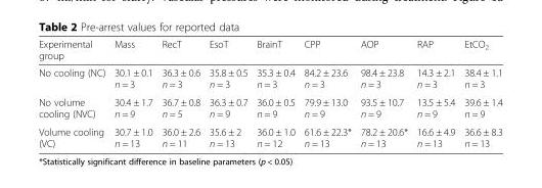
<table><thead><tr><td>Experimental group</td><td>Mass</td><td>RecT</td><td>EsoT</td><td>BrainT</td><td>CPP</td><td>AOP</td><td>RAP</td><td>EtCO<sub>2</sub></td></tr></thead><tbody><tr><td>No cooling (NC)</td><td>30.1 ± 0.1 n = 3</td><td>36.3 ± 0.6 n = 3</td><td>35.8 ± 0.5 n = 3</td><td>35.3 ± 0.4 n = 3</td><td>84.2 ± 23.6 n = 3</td><td>98.4 ± 23.8 n = 3</td><td>14.3 ± 2.1 n = 3</td><td>38.4 ± 1.1 n = 3</td></tr><tr><td>No volume cooling (NVC)</td><td>30.4 ± 1.7 n = 9</td><td>36.7 ± 0.8 n = 5</td><td>36.3 ± 0.7 n = 9</td><td>36.0 ± 0.5 n = 9</td><td>79.9 ± 13.0 n = 9</td><td>93.5 ± 10.7 n = 9</td><td>13.5 ± 5.4 n = 9</td><td>39.6 ± 1.4 n = 9</td></tr><tr><td>Volume cooling (VC)</td><td>30.7 ± 1.0 n = 13</td><td>36.0 ± 2.6 n = 11</td><td>35.6 ± 2 n = 13</td><td>36.0 ± 1.0 n = 12</td><td>61.6 ± 22.3* n = 13</td><td>78.2 ± 20.6* n = 13</td><td>16.6 ± 4.9 n = 13</td><td>36.6 ± 8.3 n = 13</td></tr></tbody></table>